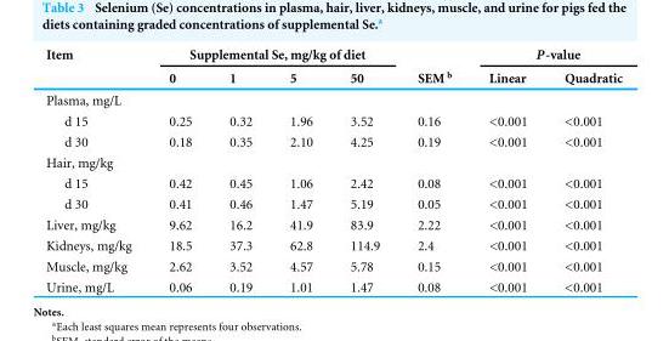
<table><thead><tr><td rowspan="2">Item</td><td colspan="4">Supplemental Se, mg/kg of diet</td><td rowspan="2">SEM <sup>b</sup></td><td colspan="2">P-value</td></tr><tr><td>0</td><td>1</td><td>5</td><td>50</td><td>Linear</td><td>Quadratic</td></tr></thead><tbody><tr><td colspan="8">Plasma, mg/L</td></tr><tr><td>d 15</td><td>0.25</td><td>0.32</td><td>1.96</td><td>3.52</td><td>0.16</td><td>&lt;0.001</td><td>&lt;0.001</td></tr><tr><td>d 30</td><td>0.18</td><td>0.35</td><td>2.10</td><td>4.25</td><td>0.19</td><td>&lt;0.001</td><td>&lt;0.001</td></tr><tr><td colspan="8">Hair, mg/kg</td></tr><tr><td>d 15</td><td>0.42</td><td>0.45</td><td>1.06</td><td>2.42</td><td>0.08</td><td>&lt;0.001</td><td>&lt;0.001</td></tr><tr><td>d 30</td><td>0.41</td><td>0.46</td><td>1.47</td><td>5.19</td><td>0.05</td><td>&lt;0.001</td><td>&lt;0.001</td></tr><tr><td>Liver, mg/kg</td><td>9.62</td><td>16.2</td><td>41.9</td><td>83.9</td><td>2.22</td><td>&lt;0.001</td><td>&lt;0.001</td></tr><tr><td>Kidneys, mg/kg</td><td>18.5</td><td>37.3</td><td>62.8</td><td>114.9</td><td>2.4</td><td>&lt;0.001</td><td>&lt;0.001</td></tr><tr><td>Muscle, mg/kg</td><td>2.62</td><td>3.52</td><td>4.57</td><td>5.78</td><td>0.15</td><td>&lt;0.001</td><td>&lt;0.001</td></tr><tr><td>Urine, mg/L</td><td>0.06</td><td>0.19</td><td>1.01</td><td>1.47</td><td>0.08</td><td>&lt;0.001</td><td>&lt;0.001</td></tr></tbody></table>